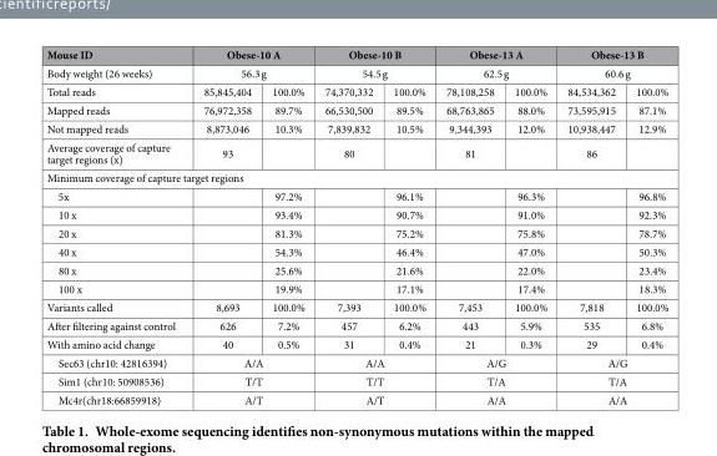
<table><thead><tr><td rowspan="3">Mouse ID Body weight (26 weeks) Total reads</td><td rowspan="2" colspan="2">Obese-10 A 56.3 g</td><td rowspan="2" colspan="2">Obese-10 B 54.5 g</td><td rowspan="2" colspan="2">Obese-13 A 62.5 g</td><td rowspan="2" colspan="2">Obese-13 B 60.6 g</td></tr><tr></tr><tr><td>85,845,404</td><td>100.0%</td><td>74,370,332</td><td>100.0%</td><td>78,108,258</td><td>100.0%</td><td>84,534,362</td><td>100.0%</td></tr></thead><tbody><tr><td>Mapped reads</td><td>76,972,358</td><td>89.7%</td><td>66,530,500</td><td>89.5%</td><td>68,763,865</td><td>88.0%</td><td>73,595,915</td><td>87.1%</td></tr><tr><td>Not mapped reads</td><td>8,873,046</td><td>10.3%</td><td>7,839,832</td><td>10.5%</td><td>9,344,393</td><td>12.0%</td><td>10,938,447</td><td>12.9%</td></tr><tr><td>Average coverage of capture target regions (x)</td><td>93</td><td></td><td>80</td><td></td><td>81</td><td></td><td>86</td><td></td></tr><tr><td colspan="9">Minimum coverage of capture target regions</td></tr><tr><td>5x</td><td></td><td>97.2%</td><td></td><td>96.1%</td><td></td><td>96.3%</td><td></td><td>96.8%</td></tr><tr><td>10 x</td><td></td><td>93.4%</td><td></td><td>90.7%</td><td></td><td>91.0%</td><td></td><td>92.3%</td></tr><tr><td>20 x</td><td></td><td>81.3%</td><td></td><td>75.2%</td><td></td><td>75.8%</td><td></td><td>78.7%</td></tr><tr><td>40 x</td><td></td><td>54.3%</td><td></td><td>46.4%</td><td></td><td>47.0%</td><td></td><td>50.3%</td></tr><tr><td>80 x</td><td></td><td>25.6%</td><td></td><td>21.6%</td><td></td><td>22.0%</td><td></td><td>23.4%</td></tr><tr><td>100 x</td><td></td><td>19.9%</td><td></td><td>17.1%</td><td></td><td>17.4%</td><td></td><td>18.3%</td></tr><tr><td>Variants called</td><td>8,693</td><td>100.0%</td><td>7,393</td><td>100.0%</td><td>7,453</td><td>100.0%</td><td>7,818</td><td>100.0%</td></tr><tr><td>After filtering against control</td><td>626</td><td>7.2%</td><td>457</td><td>6.2%</td><td>443</td><td>5.9%</td><td>535</td><td>6.8%</td></tr><tr><td>With amino acid change</td><td>40</td><td>0.5%</td><td>31</td><td>0.4%</td><td>21</td><td>0.3%</td><td>29</td><td>0.4%</td></tr><tr><td>Sec63 (chr10: 42816394)</td><td colspan="2">A/A</td><td colspan="2">A/A</td><td colspan="2">A/G</td><td colspan="2">A/G</td></tr><tr><td>Sim1 (chr10: 50908536)</td><td colspan="2">T/T</td><td colspan="2">T/T</td><td colspan="2">T/A</td><td colspan="2">T/A</td></tr><tr><td>Mc4r(chr18:66859918)</td><td colspan="2">A/T</td><td colspan="2">A/T</td><td colspan="2">A/A</td><td colspan="2">A/A</td></tr></tbody></table>